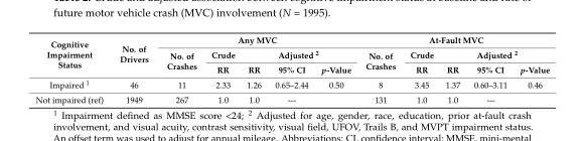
<table><thead><tr><td rowspan="3">Cognitive Impairment Status</td><td rowspan="3">No. of Drivers</td><td colspan="5">Any MVC</td><td colspan="5">At-Fault MVC</td></tr><tr><td rowspan="2">No. of Crashes</td><td rowspan="2">Crude RR</td><td colspan="3">Adjusted <sup>2</sup></td><td rowspan="2">No. of Crashes</td><td rowspan="2">Crude RR</td><td colspan="3">Adjusted <sup>2</sup></td></tr><tr><td>RR</td><td>95% CI</td><td>p-Value</td><td>RR</td><td>95% CI</td><td>p-Value</td></tr></thead><tbody><tr><td>Impaired <sup>1</sup></td><td>46</td><td>11</td><td>2.33</td><td>1.26</td><td>0.65–2.44</td><td>0.50</td><td>8</td><td>3.45</td><td>1.37</td><td>0.60–3.11</td><td>0.46</td></tr><tr><td>Not impaired (ref)</td><td>1949</td><td>267</td><td>1.0</td><td>1.0</td><td>---</td><td></td><td>131</td><td>1.0</td><td>1.0</td><td>---</td><td></td></tr></tbody></table>